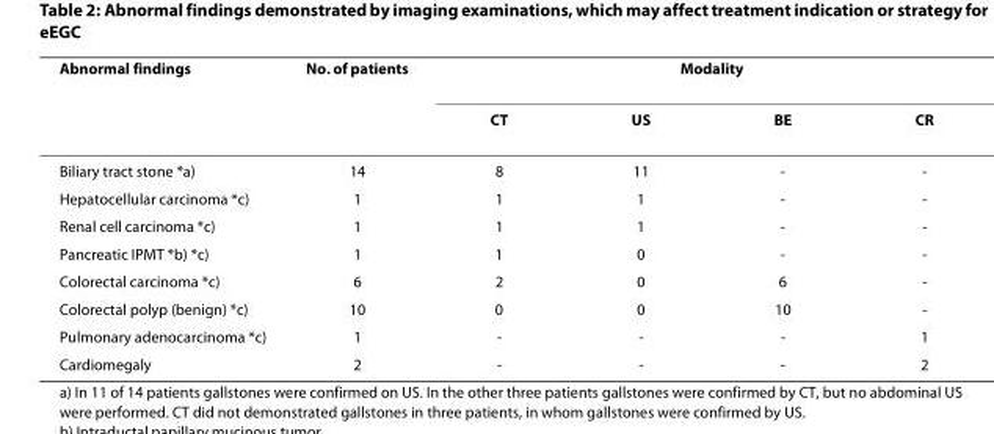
<table><thead><tr><td rowspan="2">Abnormal findings</td><td rowspan="2">No. of patients</td><td colspan="4">Modality</td></tr><tr><td>CT</td><td>US</td><td>BE</td><td>CR</td></tr></thead><tbody><tr><td>Biliary tract stone *a)</td><td>14</td><td>8</td><td>11</td><td>-</td><td>-</td></tr><tr><td>Hepatocellular carcinoma *c)</td><td>1</td><td>1</td><td>1</td><td>-</td><td>-</td></tr><tr><td>Renal cell carcinoma *c)</td><td>1</td><td>1</td><td>1</td><td>-</td><td>-</td></tr><tr><td>Pancreatic IPMT *b) *c)</td><td>1</td><td>1</td><td>0</td><td>-</td><td>-</td></tr><tr><td>Colorectal carcinoma *c)</td><td>6</td><td>2</td><td>0</td><td>6</td><td>-</td></tr><tr><td>Colorectal polyp (benign) *c)</td><td>10</td><td>0</td><td>0</td><td>10</td><td>-</td></tr><tr><td>Pulmonary adenocarcinoma *c)</td><td>1</td><td>-</td><td>-</td><td>-</td><td>1</td></tr><tr><td>Cardiomegaly</td><td>2</td><td>-</td><td>-</td><td>-</td><td>2</td></tr></tbody></table>